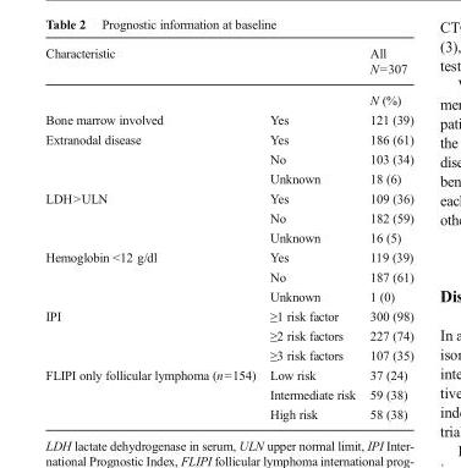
<table><thead><tr><td colspan="2">Characteristic</td><td rowspan="2">All N=307 N (%)</td></tr><tr><td></td><td></td></tr></thead><tbody><tr><td>Bone marrow involved</td><td>Yes</td><td>121 (39)</td></tr><tr><td rowspan="3">Extranodal disease</td><td>Yes</td><td>186 (61)</td></tr><tr><td>No</td><td>103 (34)</td></tr><tr><td>Unknown</td><td>18 (6)</td></tr><tr><td rowspan="3">LDH&gt;ULN</td><td>Yes</td><td>109 (36)</td></tr><tr><td>No</td><td>182 (59)</td></tr><tr><td>Unknown</td><td>16 (5)</td></tr><tr><td rowspan="3">Hemoglobin &lt;12 g/dl</td><td>Yes</td><td>119 (39)</td></tr><tr><td>No</td><td>187 (61)</td></tr><tr><td>Unknown</td><td>1 (0)</td></tr><tr><td rowspan="3">IPI</td><td>≥1 risk factor</td><td>300 (98)</td></tr><tr><td>≥2 risk factors</td><td>227 (74)</td></tr><tr><td>≥3 risk factors</td><td>107 (35)</td></tr><tr><td rowspan="3">FLIPI only follicular lymphoma (n=154)</td><td>Low risk</td><td>37 (24)</td></tr><tr><td>Intermediate risk</td><td>59 (38)</td></tr><tr><td>High risk</td><td>58 (38)</td></tr></tbody></table>